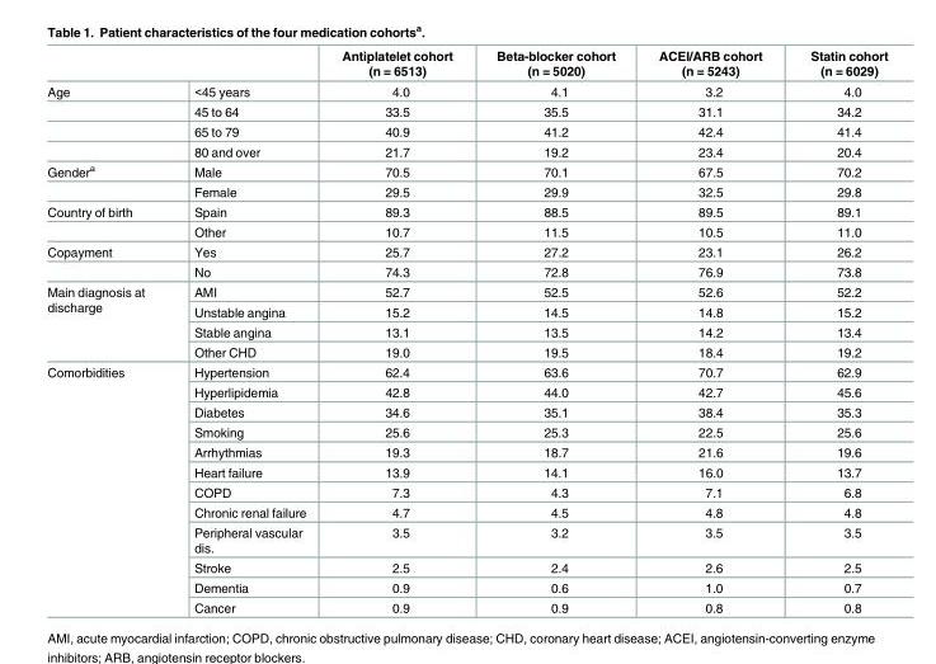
<table><thead><tr><td></td><td></td><td>Antiplatelet cohort (n = 6513)</td><td>Beta-blocker cohort (n = 5020)</td><td>ACEI/ARB cohort (n = 5243)</td><td>Statin cohort (n = 6029)</td></tr></thead><tbody><tr><td rowspan="4">Age</td><td>&lt;45 years</td><td>4.0</td><td>4.1</td><td>3.2</td><td>4.0</td></tr><tr><td>45 to 64</td><td>33.5</td><td>35.5</td><td>31.1</td><td>34.2</td></tr><tr><td>65 to 79</td><td>40.9</td><td>41.2</td><td>42.4</td><td>41.4</td></tr><tr><td>80 and over</td><td>21.7</td><td>19.2</td><td>23.4</td><td>20.4</td></tr><tr><td rowspan="2">Gender<sup>a</sup></td><td>Male</td><td>70.5</td><td>70.1</td><td>67.5</td><td>70.2</td></tr><tr><td>Female</td><td>29.5</td><td>29.9</td><td>32.5</td><td>29.8</td></tr><tr><td rowspan="2">Country of birth</td><td>Spain</td><td>89.3</td><td>88.5</td><td>89.5</td><td>89.1</td></tr><tr><td>Other</td><td>10.7</td><td>11.5</td><td>10.5</td><td>11.0</td></tr><tr><td rowspan="2">Copayment</td><td>Yes</td><td>25.7</td><td>27.2</td><td>23.1</td><td>26.2</td></tr><tr><td>No</td><td>74.3</td><td>72.8</td><td>76.9</td><td>73.8</td></tr><tr><td rowspan="4">Main diagnosis at discharge</td><td>AMI</td><td>52.7</td><td>52.5</td><td>52.6</td><td>52.2</td></tr><tr><td>Unstable angina</td><td>15.2</td><td>14.5</td><td>14.8</td><td>15.2</td></tr><tr><td>Stable angina</td><td>13.1</td><td>13.5</td><td>14.2</td><td>13.4</td></tr><tr><td>Other CHD</td><td>19.0</td><td>19.5</td><td>18.4</td><td>19.2</td></tr><tr><td rowspan="12">Comorbidities</td><td>Hypertension</td><td>62.4</td><td>63.6</td><td>70.7</td><td>62.9</td></tr><tr><td>Hyperlipidemia</td><td>42.8</td><td>44.0</td><td>42.7</td><td>45.6</td></tr><tr><td>Diabetes</td><td>34.6</td><td>35.1</td><td>38.4</td><td>35.3</td></tr><tr><td>Smoking</td><td>25.6</td><td>25.3</td><td>22.5</td><td>25.6</td></tr><tr><td>Arrhythmias</td><td>19.3</td><td>18.7</td><td>21.6</td><td>19.6</td></tr><tr><td>Heart failure</td><td>13.9</td><td>14.1</td><td>16.0</td><td>13.7</td></tr><tr><td>COPD</td><td>7.3</td><td>4.3</td><td>7.1</td><td>6.8</td></tr><tr><td>Chronic renal failure</td><td>4.7</td><td>4.5</td><td>4.8</td><td>4.8</td></tr><tr><td>Peripheral vascular dis.</td><td>3.5</td><td>3.2</td><td>3.5</td><td>3.5</td></tr><tr><td>Stroke</td><td>2.5</td><td>2.4</td><td>2.6</td><td>2.5</td></tr><tr><td>Dementia</td><td>0.9</td><td>0.6</td><td>1.0</td><td>0.7</td></tr><tr><td>Cancer</td><td>0.9</td><td>0.9</td><td>0.8</td><td>0.8</td></tr></tbody></table>